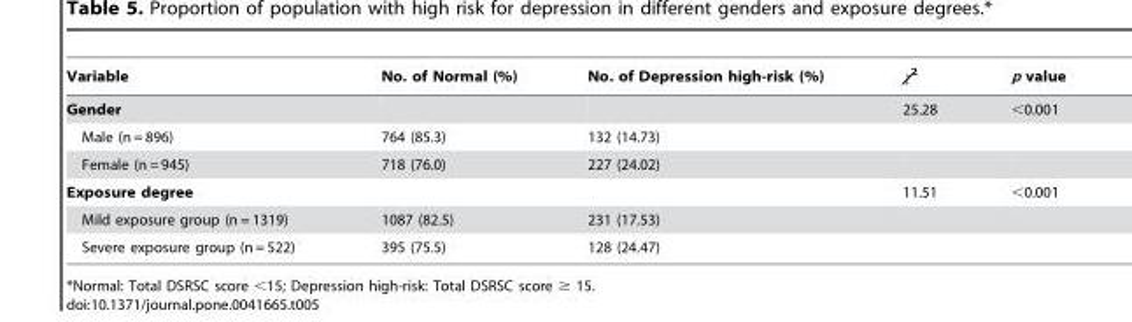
<table><thead><tr><td>Variable</td><td>No. of Normal (%)</td><td>No. of Depression high-risk (%)</td><td>χ<sup>2</sup></td><td>p value</td></tr></thead><tbody><tr><td>Gender</td><td></td><td></td><td>25.28</td><td>&lt;0.001</td></tr><tr><td>Male (n = 896)</td><td>764 (85.3)</td><td>132 (14.73)</td><td></td><td></td></tr><tr><td>Female (n = 945)</td><td>718 (76.0)</td><td>227 (24.02)</td><td></td><td></td></tr><tr><td>Exposure degree</td><td></td><td></td><td>11.51</td><td>&lt;0.001</td></tr><tr><td>Mild exposure group (n = 1319)</td><td>1087 (82.5)</td><td>231 (17.53)</td><td></td><td></td></tr><tr><td>Severe exposure group (n = 522)</td><td>395 (75.5)</td><td>128 (24.47)</td><td></td><td></td></tr></tbody></table>